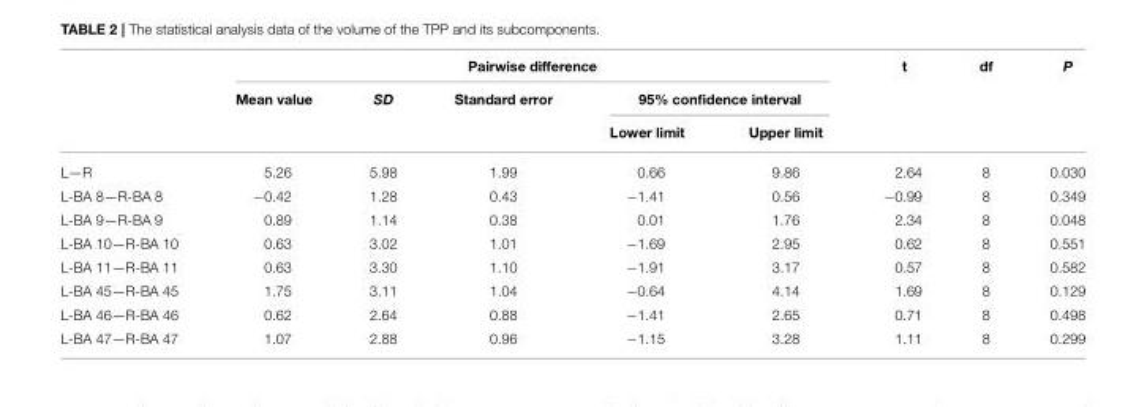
<table><thead><tr><td rowspan="3"></td><td colspan="5">Pairwise difference</td><td rowspan="3">t</td><td rowspan="3">df</td><td rowspan="3">P</td></tr><tr><td rowspan="2">Mean value</td><td rowspan="2">SD</td><td rowspan="2">Standard error</td><td colspan="2">95% confidence interval</td></tr><tr><td>Lower limit</td><td>Upper limit</td></tr></thead><tbody><tr><td>L—R</td><td>5.26</td><td>5.98</td><td>1.99</td><td>0.66</td><td>9.86</td><td>2.64</td><td>8</td><td>0.030</td></tr><tr><td>L-BA 8—R-BA 8</td><td>−0.42</td><td>1.28</td><td>0.43</td><td>−1.41</td><td>0.56</td><td>−0.99</td><td>8</td><td>0.349</td></tr><tr><td>L-BA 9—R-BA 9</td><td>0.89</td><td>1.14</td><td>0.38</td><td>0.01</td><td>1.76</td><td>2.34</td><td>8</td><td>0.048</td></tr><tr><td>L-BA 10—R-BA 10</td><td>0.63</td><td>3.02</td><td>1.01</td><td>−1.69</td><td>2.95</td><td>0.62</td><td>8</td><td>0.551</td></tr><tr><td>L-BA 11—R-BA 11</td><td>0.63</td><td>3.30</td><td>1.10</td><td>−1.91</td><td>3.17</td><td>0.57</td><td>8</td><td>0.582</td></tr><tr><td>L-BA 45—R-BA 45</td><td>1.75</td><td>3.11</td><td>1.04</td><td>−0.64</td><td>4.14</td><td>1.69</td><td>8</td><td>0.129</td></tr><tr><td>L-BA 46—R-BA 46</td><td>0.62</td><td>2.64</td><td>0.88</td><td>−1.41</td><td>2.65</td><td>0.71</td><td>8</td><td>0.498</td></tr><tr><td>L-BA 47—R-BA 47</td><td>1.07</td><td>2.88</td><td>0.96</td><td>−1.15</td><td>3.28</td><td>1.11</td><td>8</td><td>0.299</td></tr></tbody></table>